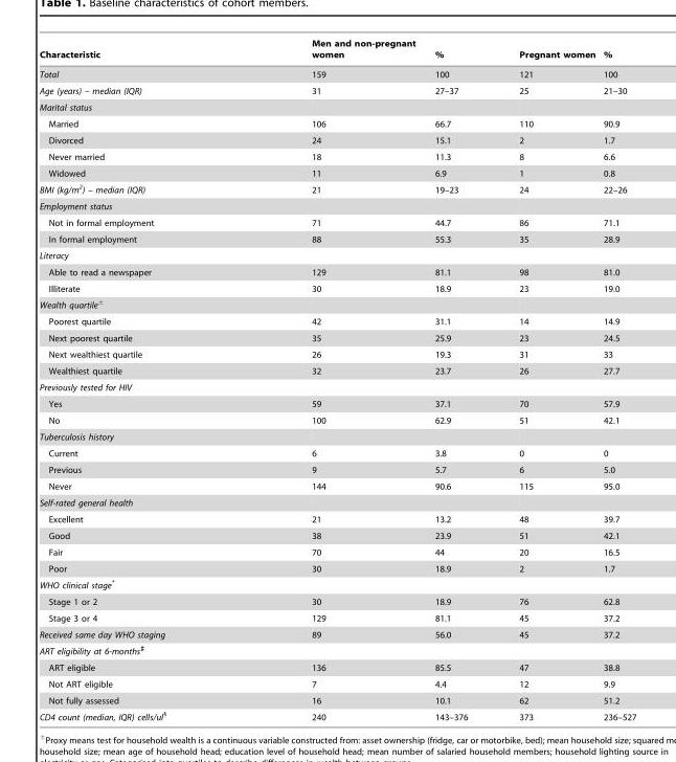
<table><thead><tr><td>Characteristic</td><td>Men and non-pregnant women</td><td>%</td><td>Pregnant women</td><td>%</td></tr></thead><tbody><tr><td>Total</td><td>159</td><td>100</td><td>121</td><td>100</td></tr><tr><td>Age (years) – median (IQR)</td><td>31</td><td>27–37</td><td>25</td><td>21–30</td></tr><tr><td colspan="5">Marital status</td></tr><tr><td>Married</td><td>106</td><td>66.7</td><td>110</td><td>90.9</td></tr><tr><td>Divorced</td><td>24</td><td>15.1</td><td>2</td><td>1.7</td></tr><tr><td>Never married</td><td>18</td><td>11.3</td><td>8</td><td>6.6</td></tr><tr><td>Widowed</td><td>11</td><td>6.9</td><td>1</td><td>0.8</td></tr><tr><td>BMI (kg/m<sup>2</sup>) – median (IQR)</td><td>21</td><td>19–23</td><td>24</td><td>22–26</td></tr><tr><td colspan="5">Employment status</td></tr><tr><td>Not in formal employment</td><td>71</td><td>44.7</td><td>86</td><td>71.1</td></tr><tr><td>In formal employment</td><td>88</td><td>55.3</td><td>35</td><td>28.9</td></tr><tr><td colspan="5">Literacy</td></tr><tr><td>Able to read a newspaper</td><td>129</td><td>81.1</td><td>98</td><td>81.0</td></tr><tr><td>Illiterate</td><td>30</td><td>18.9</td><td>23</td><td>19.0</td></tr><tr><td colspan="5">Wealth quartile±</td></tr><tr><td>Poorest quartile</td><td>42</td><td>31.1</td><td>14</td><td>14.9</td></tr><tr><td>Next poorest quartile</td><td>35</td><td>25.9</td><td>23</td><td>24.5</td></tr><tr><td>Next wealthiest quartile</td><td>26</td><td>19.3</td><td>31</td><td>33</td></tr><tr><td>Wealthiest quartile</td><td>32</td><td>23.7</td><td>26</td><td>27.7</td></tr><tr><td colspan="5">Previously tested for HIV</td></tr><tr><td>Yes</td><td>59</td><td>37.1</td><td>70</td><td>57.9</td></tr><tr><td>No</td><td>100</td><td>62.9</td><td>51</td><td>42.1</td></tr><tr><td colspan="5">Tuberculosis history</td></tr><tr><td>Current</td><td>6</td><td>3.8</td><td>0</td><td>0</td></tr><tr><td>Previous</td><td>9</td><td>5.7</td><td>6</td><td>5.0</td></tr><tr><td>Never</td><td>144</td><td>90.6</td><td>115</td><td>95.0</td></tr><tr><td colspan="5">Self-rated general health</td></tr><tr><td>Excellent</td><td>21</td><td>13.2</td><td>48</td><td>39.7</td></tr><tr><td>Good</td><td>38</td><td>23.9</td><td>51</td><td>42.1</td></tr><tr><td>Fair</td><td>70</td><td>44</td><td>20</td><td>16.5</td></tr><tr><td>Poor</td><td>30</td><td>18.9</td><td>2</td><td>1.7</td></tr><tr><td colspan="5">WHO clinical stage*</td></tr><tr><td>Stage 1 or 2</td><td>30</td><td>18.9</td><td>76</td><td>62.8</td></tr><tr><td>Stage 3 or 4</td><td>129</td><td>81.1</td><td>45</td><td>37.2</td></tr><tr><td>Received same day WHO staging</td><td>89</td><td>56.0</td><td>45</td><td>37.2</td></tr><tr><td colspan="5">ART eligibility at 6-months♯</td></tr><tr><td>ART eligible</td><td>136</td><td>85.5</td><td>47</td><td>38.8</td></tr><tr><td>Not ART eligible</td><td>7</td><td>4.4</td><td>12</td><td>9.9</td></tr><tr><td>Not fully assessed</td><td>16</td><td>10.1</td><td>62</td><td>51.2</td></tr><tr><td>CD4 count (median, IQR) cells/ul§</td><td>240</td><td>143–376</td><td>373</td><td>236–527</td></tr></tbody></table>